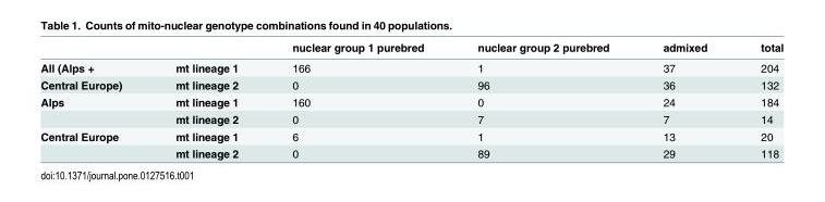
<table><thead><tr><td></td><td></td><td>nuclear group 1 purebred</td><td>nuclear group 2 purebred</td><td>admixed</td><td>total</td></tr></thead><tbody><tr><td>All (Alps +</td><td>mt lineage 1</td><td>166</td><td>1</td><td>37</td><td>204</td></tr><tr><td>Central Europe)</td><td>mt lineage 2</td><td>0</td><td>96</td><td>36</td><td>132</td></tr><tr><td rowspan="2">Alps</td><td>mt lineage 1</td><td>160</td><td>0</td><td>24</td><td>184</td></tr><tr><td>mt lineage 2</td><td>0</td><td>7</td><td>7</td><td>14</td></tr><tr><td rowspan="2">Central Europe</td><td>mt lineage 1</td><td>6</td><td>1</td><td>13</td><td>20</td></tr><tr><td>mt lineage 2</td><td>0</td><td>89</td><td>29</td><td>118</td></tr></tbody></table>